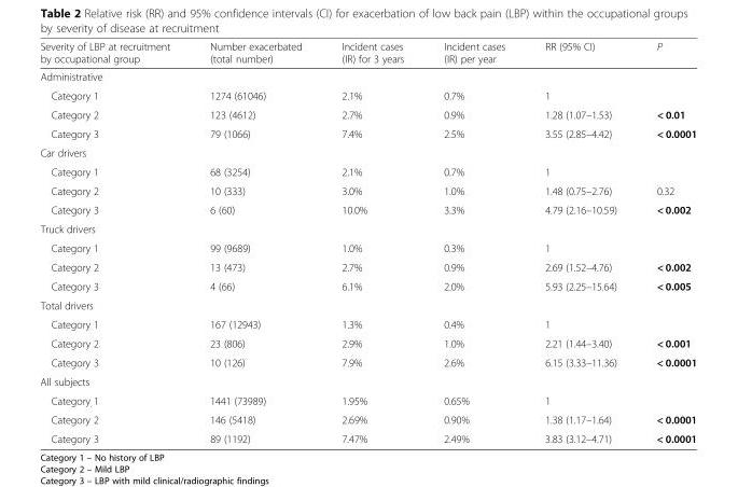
<table><thead><tr><td>Severity of LBP at recruitment by occupational group</td><td>Number exacerbated (total number)</td><td>Incident cases (IR) for 3 years</td><td>Incident cases (IR) per year</td><td>RR (95% CI)</td><td>P</td></tr></thead><tbody><tr><td colspan="6">Administrative</td></tr><tr><td>Category 1</td><td>1274 (61046)</td><td>2.1%</td><td>0.7%</td><td>1</td><td></td></tr><tr><td>Category 2</td><td>123 (4612)</td><td>2.7%</td><td>0.9%</td><td>1.28 (1.07–1.53)</td><td>&lt; 0.01</td></tr><tr><td>Category 3</td><td>79 (1066)</td><td>7.4%</td><td>2.5%</td><td>3.55 (2.85–4.42)</td><td>&lt; 0.0001</td></tr><tr><td colspan="6">Car drivers</td></tr><tr><td>Category 1</td><td>68 (3254)</td><td>2.1%</td><td>0.7%</td><td>1</td><td></td></tr><tr><td>Category 2</td><td>10 (333)</td><td>3.0%</td><td>1.0%</td><td>1.48 (0.75–2.76)</td><td>0.32</td></tr><tr><td>Category 3</td><td>6 (60)</td><td>10.0%</td><td>3.3%</td><td>4.79 (2.16–10.59)</td><td>&lt; 0.002</td></tr><tr><td colspan="6">Truck drivers</td></tr><tr><td>Category 1</td><td>99 (9689)</td><td>1.0%</td><td>0.3%</td><td>1</td><td></td></tr><tr><td>Category 2</td><td>13 (473)</td><td>2.7%</td><td>0.9%</td><td>2.69 (1.52–4.76)</td><td>&lt; 0.002</td></tr><tr><td>Category 3</td><td>4 (66)</td><td>6.1%</td><td>2.0%</td><td>5.93 (2.25–15.64)</td><td>&lt; 0.005</td></tr><tr><td colspan="6">Total drivers</td></tr><tr><td>Category 1</td><td>167 (12943)</td><td>1.3%</td><td>0.4%</td><td>1</td><td></td></tr><tr><td>Category 2</td><td>23 (806)</td><td>2.9%</td><td>1.0%</td><td>2.21 (1.44–3.40)</td><td>&lt; 0.001</td></tr><tr><td>Category 3</td><td>10 (126)</td><td>7.9%</td><td>2.6%</td><td>6.15 (3.33–11.36)</td><td>&lt; 0.0001</td></tr><tr><td colspan="6">All subjects</td></tr><tr><td>Category 1</td><td>1441 (73989)</td><td>1.95%</td><td>0.65%</td><td>1</td><td></td></tr><tr><td>Category 2</td><td>146 (5418)</td><td>2.69%</td><td>0.90%</td><td>1.38 (1.17–1.64)</td><td>&lt; 0.0001</td></tr><tr><td>Category 3</td><td>89 (1192)</td><td>7.47%</td><td>2.49%</td><td>3.83 (3.12–4.71)</td><td>&lt; 0.0001</td></tr></tbody></table>